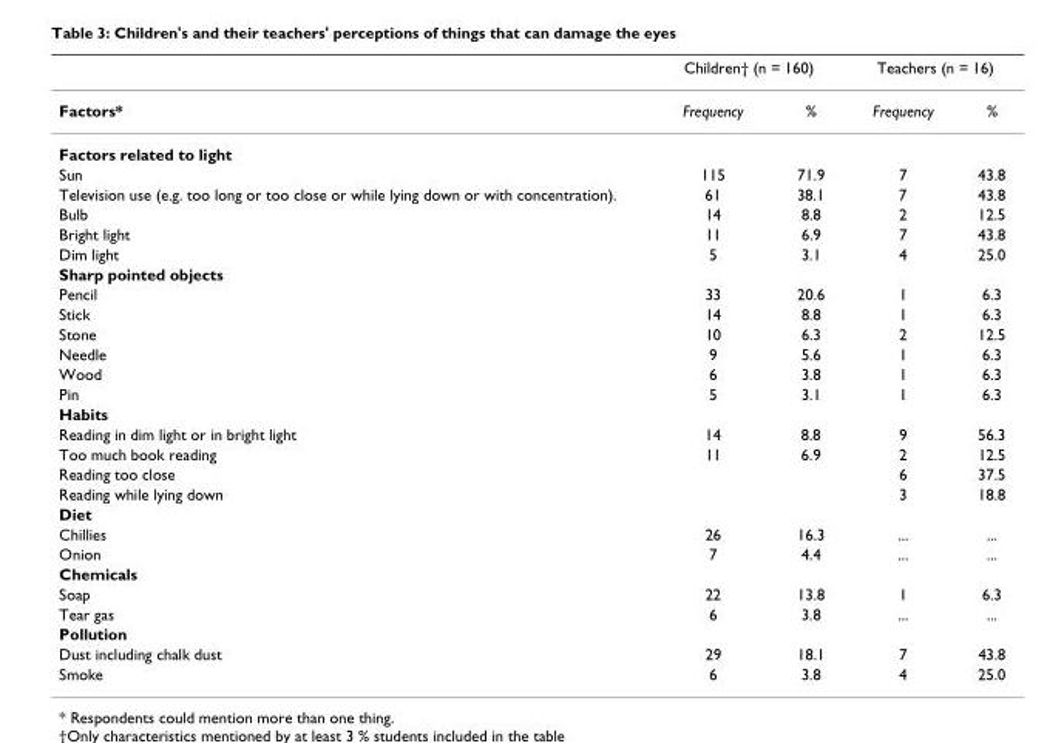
<table><thead><tr><td rowspan="2">Factors*</td><td colspan="2">Children† (n = 160)</td><td colspan="2">Teachers (n = 16)</td></tr><tr><td>Frequency</td><td>%</td><td>Frequency</td><td>%</td></tr></thead><tbody><tr><td colspan="5">Factors related to light</td></tr><tr><td>Sun</td><td>115</td><td>71.9</td><td>7</td><td>43.8</td></tr><tr><td>Television use (e.g. too long or too close or while lying down or with concentration).</td><td>61</td><td>38.1</td><td>7</td><td>43.8</td></tr><tr><td>Bulb</td><td>14</td><td>8.8</td><td>2</td><td>12.5</td></tr><tr><td>Bright light</td><td>11</td><td>6.9</td><td>7</td><td>43.8</td></tr><tr><td>Dim light</td><td>5</td><td>3.1</td><td>4</td><td>25.0</td></tr><tr><td colspan="5">Sharp pointed objects</td></tr><tr><td>Pencil</td><td>33</td><td>20.6</td><td>1</td><td>6.3</td></tr><tr><td>Stick</td><td>14</td><td>8.8</td><td>1</td><td>6.3</td></tr><tr><td>Stone</td><td>10</td><td>6.3</td><td>2</td><td>12.5</td></tr><tr><td>Needle</td><td>9</td><td>5.6</td><td>1</td><td>6.3</td></tr><tr><td>Wood</td><td>6</td><td>3.8</td><td>1</td><td>6.3</td></tr><tr><td>Pin</td><td>5</td><td>3.1</td><td>1</td><td>6.3</td></tr><tr><td colspan="5">Habits</td></tr><tr><td>Reading in dim light or in bright light</td><td>14</td><td>8.8</td><td>9</td><td>56.3</td></tr><tr><td>Too much book reading</td><td>11</td><td>6.9</td><td>2</td><td>12.5</td></tr><tr><td>Reading too close</td><td></td><td></td><td>6</td><td>37.5</td></tr><tr><td>Reading while lying down</td><td></td><td></td><td>3</td><td>18.8</td></tr><tr><td colspan="5">Diet</td></tr><tr><td>Chillies</td><td>26</td><td>16.3</td><td>...</td><td>...</td></tr><tr><td>Onion</td><td>7</td><td>4.4</td><td>...</td><td>...</td></tr><tr><td colspan="5">Chemicals</td></tr><tr><td>Soap</td><td>22</td><td>13.8</td><td>1</td><td>6.3</td></tr><tr><td>Tear gas</td><td>6</td><td>3.8</td><td>...</td><td>...</td></tr><tr><td colspan="5">Pollution</td></tr><tr><td>Dust including chalk dust</td><td>29</td><td>18.1</td><td>7</td><td>43.8</td></tr><tr><td>Smoke</td><td>6</td><td>3.8</td><td>4</td><td>25.0</td></tr></tbody></table>